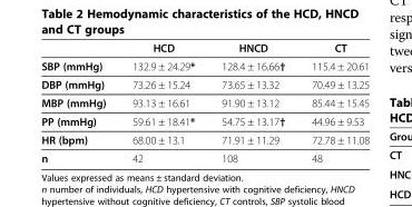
<table><thead><tr><td></td><td>HCD</td><td>HNCD</td><td>CT</td></tr></thead><tbody><tr><td>SBP (mmHg)</td><td>132.9 ± 24.29*</td><td>128.4 ± 16.66†</td><td>115.4 ± 20.61</td></tr><tr><td>DBP (mmHg)</td><td>73.26 ± 15.24</td><td>73.65 ± 13.32</td><td>70.49 ± 13.25</td></tr><tr><td>MBP (mmHg)</td><td>93.13 ± 16.61</td><td>91.90 ± 13.12</td><td>85.44 ± 15.45</td></tr><tr><td>PP (mmHg)</td><td>59.61 ± 18.41*</td><td>54.75 ± 13.17†</td><td>44.96 ± 9.53</td></tr><tr><td>HR (bpm)</td><td>68.00 ± 13.1</td><td>71.91 ± 11.29</td><td>72.78 ± 11.08</td></tr><tr><td>n</td><td>42</td><td>108</td><td>48</td></tr></tbody></table>